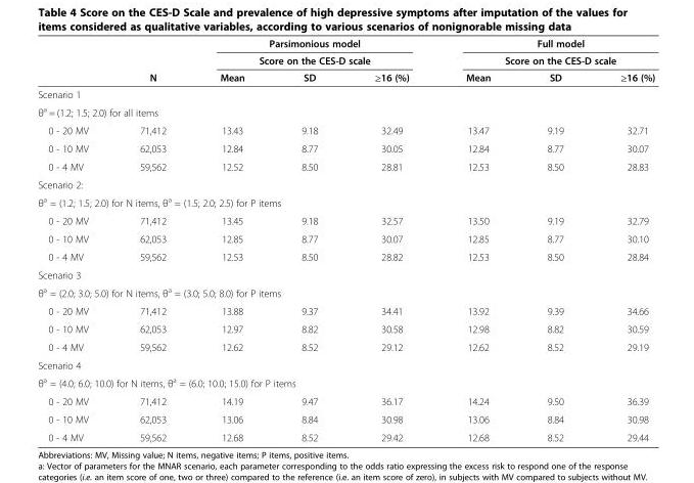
<table><thead><tr><td rowspan="3"></td><td rowspan="3">N</td><td rowspan="2" colspan="3">Parsimonious model Score on the CES-D scale</td><td rowspan="2" colspan="3">Full model Score on the CES-D scale</td></tr><tr></tr><tr><td>Mean</td><td>SD</td><td>≥16 (%)</td><td>Mean</td><td>SD</td><td>≥16 (%)</td></tr></thead><tbody><tr><td colspan="8">Scenario 1</td></tr><tr><td colspan="8">θ<sup>a</sup> = (1.2; 1.5; 2.0) for all items</td></tr><tr><td>0 - 20 MV</td><td>71,412</td><td>13.43</td><td>9.18</td><td>32.49</td><td>13.47</td><td>9.19</td><td>32.71</td></tr><tr><td>0 - 10 MV</td><td>62,053</td><td>12.84</td><td>8.77</td><td>30.05</td><td>12.84</td><td>8.77</td><td>30.07</td></tr><tr><td>0 - 4 MV</td><td>59,562</td><td>12.52</td><td>8.50</td><td>28.81</td><td>12.53</td><td>8.50</td><td>28.83</td></tr><tr><td colspan="8">Scenario 2:</td></tr><tr><td colspan="8">θ<sup>a</sup> = (1.2; 1.5; 2.0) for N items, θ<sup>a</sup> = (1.5; 2.0; 2.5) for P items</td></tr><tr><td>0 - 20 MV</td><td>71,412</td><td>13.45</td><td>9.18</td><td>32.57</td><td>13.50</td><td>9.19</td><td>32.79</td></tr><tr><td>0 - 10 MV</td><td>62,053</td><td>12.85</td><td>8.77</td><td>30.07</td><td>12.85</td><td>8.77</td><td>30.10</td></tr><tr><td>0 - 4 MV</td><td>59,562</td><td>12.53</td><td>8.50</td><td>28.82</td><td>12.53</td><td>8.50</td><td>28.84</td></tr><tr><td colspan="8">Scenario 3</td></tr><tr><td colspan="8">θ<sup>a</sup> = (2.0; 3.0; 5.0) for N items, θ<sup>a</sup> = (3.0; 5.0; 8.0) for P items</td></tr><tr><td>0 - 20 MV</td><td>71,412</td><td>13.88</td><td>9.37</td><td>34.41</td><td>13.92</td><td>9.39</td><td>34.66</td></tr><tr><td>0 - 10 MV</td><td>62,053</td><td>12.97</td><td>8.82</td><td>30.58</td><td>12.98</td><td>8.82</td><td>30.59</td></tr><tr><td>0 - 4 MV</td><td>59,562</td><td>12.62</td><td>8.52</td><td>29.12</td><td>12.62</td><td>8.52</td><td>29.19</td></tr><tr><td colspan="8">Scenario 4</td></tr><tr><td colspan="8">θ<sup>a</sup> = (4.0; 6.0; 10.0) for N items, θ<sup>a</sup> = (6.0; 10.0; 15.0) for P items</td></tr><tr><td>0 - 20 MV</td><td>71,412</td><td>14.19</td><td>9.47</td><td>36.17</td><td>14.24</td><td>9.50</td><td>36.39</td></tr><tr><td>0 - 10 MV</td><td>62,053</td><td>13.06</td><td>8.84</td><td>30.98</td><td>13.06</td><td>8.84</td><td>30.98</td></tr><tr><td>0 - 4 MV</td><td>59,562</td><td>12.68</td><td>8.52</td><td>29.42</td><td>12.68</td><td>8.52</td><td>29.44</td></tr></tbody></table>